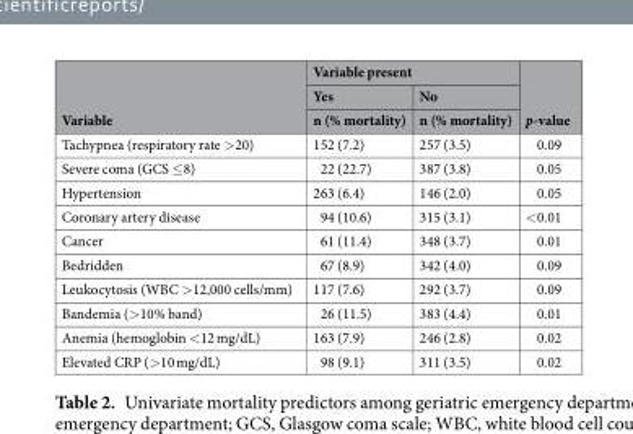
<table><thead><tr><td rowspan="3">Variable</td><td colspan="2">Variable present</td><td rowspan="3">p-value</td></tr><tr><td rowspan="2">Yes n (% mortality)</td><td rowspan="2">No n (% mortality)</td></tr><tr></tr></thead><tbody><tr><td>Tachypnea (respiratory rate &gt;20)</td><td>152 (7.2)</td><td>257 (3.5)</td><td>0.09</td></tr><tr><td>Severe coma (GCS ≤8)</td><td>22 (22.7)</td><td>387 (3.8)</td><td>0.05</td></tr><tr><td>Hypertension</td><td>263 (6.4)</td><td>146 (2.0)</td><td>0.05</td></tr><tr><td>Coronary artery disease</td><td>94 (10.6)</td><td>315 (3.1)</td><td>&lt;0.01</td></tr><tr><td>Cancer</td><td>61 (11.4)</td><td>348 (3.7)</td><td>0.01</td></tr><tr><td>Bedridden</td><td>67 (8.9)</td><td>342 (4.0)</td><td>0.09</td></tr><tr><td>Leukocytosis (WBC &gt;12,000 cells/mm)</td><td>117 (7.6)</td><td>292 (3.7)</td><td>0.09</td></tr><tr><td>Bandemia (&gt;10% band)</td><td>26 (11.5)</td><td>383 (4.4)</td><td>0.01</td></tr><tr><td>Anemia (hemoglobin &lt;12 mg/dL)</td><td>163 (7.9)</td><td>246 (2.8)</td><td>0.02</td></tr><tr><td>Elevated CRP (&gt;10 mg/dL)</td><td>98 (9.1)</td><td>311 (3.5)</td><td>0.02</td></tr></tbody></table>